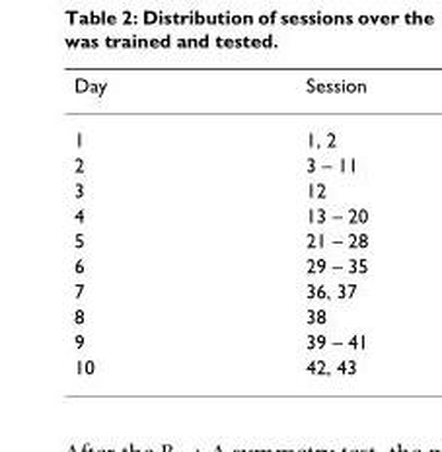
<table><thead><tr><td>Day</td><td>Session</td></tr></thead><tbody><tr><td>1</td><td>1, 2</td></tr><tr><td>2</td><td>3 – 11</td></tr><tr><td>3</td><td>12</td></tr><tr><td>4</td><td>13 – 20</td></tr><tr><td>5</td><td>21 – 28</td></tr><tr><td>6</td><td>29 – 35</td></tr><tr><td>7</td><td>36, 37</td></tr><tr><td>8</td><td>38</td></tr><tr><td>9</td><td>39 – 41</td></tr><tr><td>10</td><td>42, 43</td></tr></tbody></table>